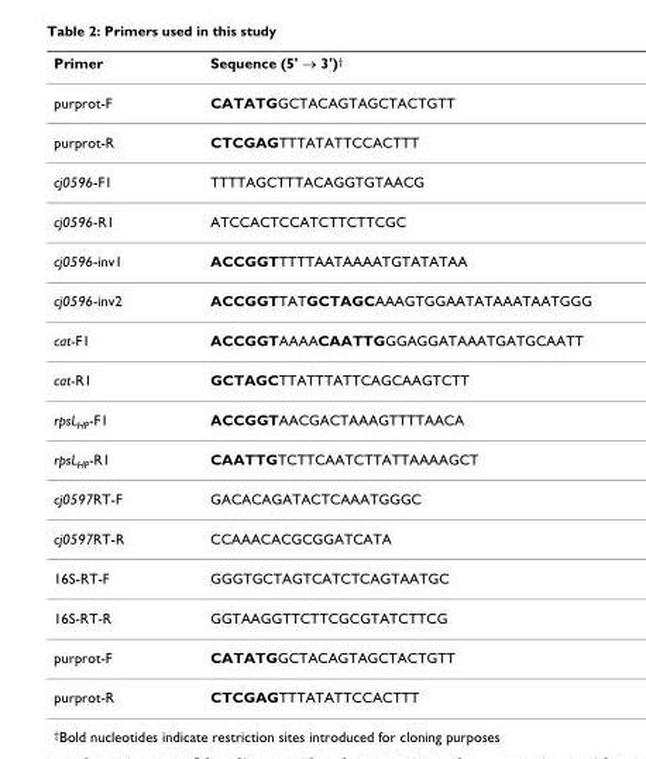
<table><thead><tr><td>Primer</td><td>Sequence (5&#x27; → 3&#x27;)<sup>†</sup></td></tr></thead><tbody><tr><td>purprot-F</td><td>CATATGGCTACAGTAGCTACTGTT</td></tr><tr><td>purprot-R</td><td>CTCGAGTTTATATTCCACTTT</td></tr><tr><td>cj0596-F1</td><td>TTTTAGCTTTACAGGTGTAACG</td></tr><tr><td>cj0596-R1</td><td>ATCCACTCCATCTTCTTCGC</td></tr><tr><td>cj0596-inv1</td><td>ACCGGTTTTTAATAAAATGTATATAA</td></tr><tr><td>cj0596-inv2</td><td>ACCGGTTATGCTAGCAAAGTGGAATATAAATAATGGG</td></tr><tr><td>cat-F1</td><td>ACCGGTAAAACAATTGGGAGGATAAATGATGCAATT</td></tr><tr><td>cat-R1</td><td>GCTAGCTTATTTATTCAGCAAGTCTT</td></tr><tr><td>rpsL<sub>HP</sub>-F1</td><td>ACCGGTAACGACTAAAGTTTTAACA</td></tr><tr><td>rpsL<sub>HP</sub>-R1</td><td>CAATTGTCTTCAATCTTATTAAAAGCT</td></tr><tr><td>cj0597RT-F</td><td>GACACAGATACTCAAATGGGC</td></tr><tr><td>cj0597RT-R</td><td>CCAAACACGCGGATCATA</td></tr><tr><td>16S-RT-F</td><td>GGGTGCTAGTCATCTCAGTAATGC</td></tr><tr><td>16S-RT-R</td><td>GGTAAGGTTCTTCGCGTATCTTCG</td></tr><tr><td>purprot-F</td><td>CATATGGCTACAGTAGCTACTGTT</td></tr><tr><td>purprot-R</td><td>CTCGAGTTTATATTCCACTTT</td></tr></tbody></table>